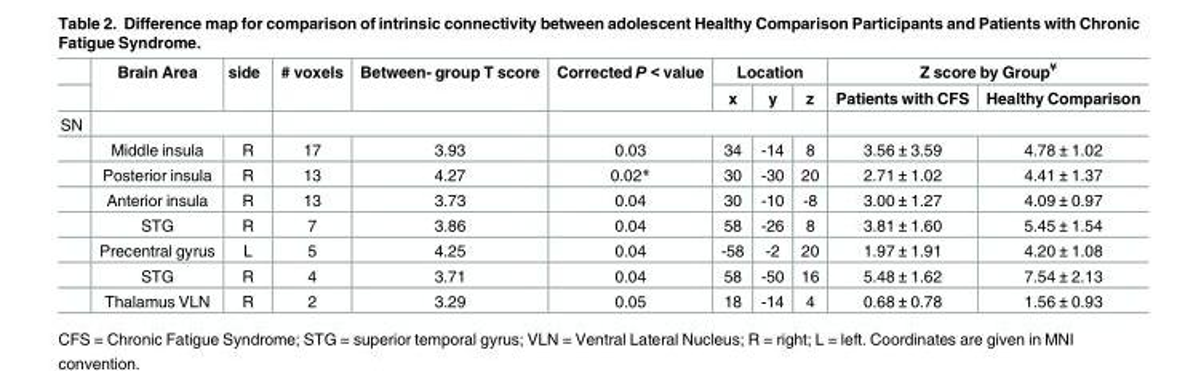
<table><thead><tr><td rowspan="2"></td><td rowspan="2">Brain Area</td><td rowspan="2">side</td><td rowspan="2"># voxels</td><td rowspan="2">Between- group T score</td><td rowspan="2">Corrected P &lt; value</td><td colspan="3">Location</td><td colspan="2">Z score by Group<sup>¥</sup></td></tr><tr><td>x</td><td>y</td><td>z</td><td>Patients with CFS</td><td>Healthy Comparison</td></tr></thead><tbody><tr><td colspan="11">SN</td></tr><tr><td></td><td>Middle insula</td><td>R</td><td>17</td><td>3.93</td><td>0.03</td><td>34</td><td>-14</td><td>8</td><td>3.56 ± 3.59</td><td>4.78 ± 1.02</td></tr><tr><td></td><td>Posterior insula</td><td>R</td><td>13</td><td>4.27</td><td>0.02*</td><td>30</td><td>-30</td><td>20</td><td>2.71 ± 1.02</td><td>4.41 ± 1.37</td></tr><tr><td></td><td>Anterior insula</td><td>R</td><td>13</td><td>3.73</td><td>0.04</td><td>30</td><td>-10</td><td>-8</td><td>3.00 ± 1.27</td><td>4.09 ± 0.97</td></tr><tr><td></td><td>STG</td><td>R</td><td>7</td><td>3.86</td><td>0.04</td><td>58</td><td>-26</td><td>8</td><td>3.81 ± 1.60</td><td>5.45 ± 1.54</td></tr><tr><td></td><td>Precentral gyrus</td><td>L</td><td>5</td><td>4.25</td><td>0.04</td><td>-58</td><td>-2</td><td>20</td><td>1.97 ± 1.91</td><td>4.20 ± 1.08</td></tr><tr><td></td><td>STG</td><td>R</td><td>4</td><td>3.71</td><td>0.04</td><td>58</td><td>-50</td><td>16</td><td>5.48 ± 1.62</td><td>7.54 ± 2.13</td></tr><tr><td></td><td>Thalamus VLN</td><td>R</td><td>2</td><td>3.29</td><td>0.05</td><td>18</td><td>-14</td><td>4</td><td>0.68 ± 0.78</td><td>1.56 ± 0.93</td></tr></tbody></table>